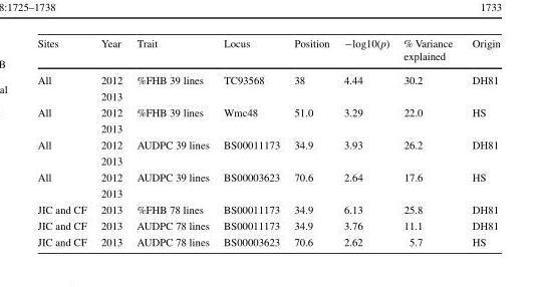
<table><thead><tr><td>Sites</td><td>Year</td><td>Trait</td><td>Locus</td><td>Position</td><td>−log10(p)</td><td>% Variance explained</td><td>Origin</td></tr></thead><tbody><tr><td rowspan="2">All</td><td>2012</td><td rowspan="2">%FHB 39 lines</td><td rowspan="2">TC93568</td><td rowspan="2">38</td><td rowspan="2">4.44</td><td rowspan="2">30.2</td><td rowspan="2">DH81</td></tr><tr><td>2013</td></tr><tr><td rowspan="2">All</td><td>2012</td><td rowspan="2">%FHB 39 lines</td><td rowspan="2">Wmc48</td><td rowspan="2">51.0</td><td rowspan="2">3.29</td><td rowspan="2">22.0</td><td rowspan="2">HS</td></tr><tr><td>2013</td></tr><tr><td rowspan="2">All</td><td>2012</td><td rowspan="2">AUDPC 39 lines</td><td rowspan="2">BS00011173</td><td rowspan="2">34.9</td><td rowspan="2">3.93</td><td rowspan="2">26.2</td><td rowspan="2">DH81</td></tr><tr><td>2013</td></tr><tr><td rowspan="2">All</td><td>2012</td><td rowspan="2">AUDPC 39 lines</td><td rowspan="2">BS00003623</td><td rowspan="2">70.6</td><td rowspan="2">2.64</td><td rowspan="2">17.6</td><td rowspan="2">HS</td></tr><tr><td>2013</td></tr><tr><td>JIC and CF</td><td>2013</td><td>%FHB 78 lines</td><td>BS00011173</td><td>34.9</td><td>6.13</td><td>25.8</td><td>DH81</td></tr><tr><td>JIC and CF</td><td>2013</td><td>AUDPC 78 lines</td><td>BS00011173</td><td>34.9</td><td>3.76</td><td>11.1</td><td>DH81</td></tr><tr><td>JIC and CF</td><td>2013</td><td>AUDPC 78 lines</td><td>BS00003623</td><td>70.6</td><td>2.62</td><td>5.7</td><td>HS</td></tr></tbody></table>